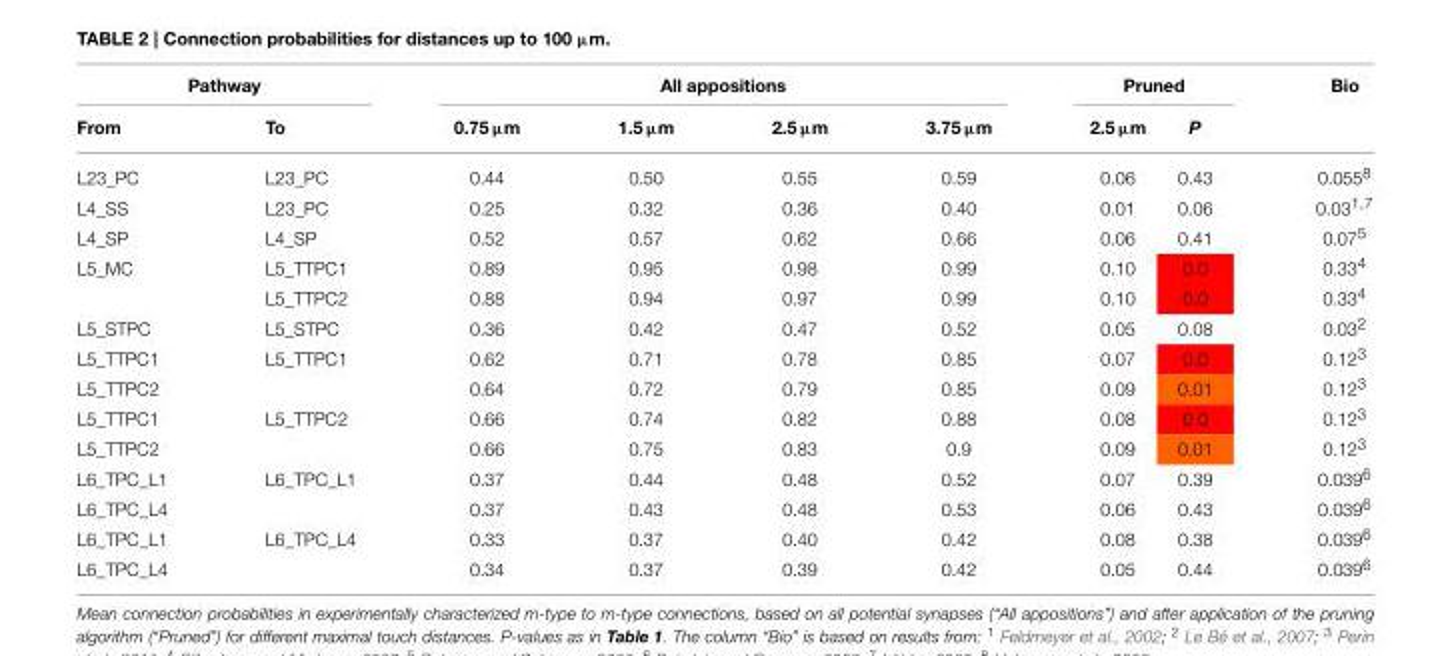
<table><thead><tr><td colspan="2">Pathway</td><td colspan="4">All appositions</td><td colspan="2">Pruned</td><td rowspan="2">Bio</td></tr><tr><td>From</td><td>To</td><td>0.75 µm</td><td>1.5 µm</td><td>2.5 µm</td><td>3.75 µm</td><td>2.5 µm</td><td>P</td></tr></thead><tbody><tr><td>L23_PC</td><td>L23_PC</td><td>0.44</td><td>0.50</td><td>0.55</td><td>0.59</td><td>0.06</td><td>0.43</td><td>0.055<sup>8</sup></td></tr><tr><td>L4_SS</td><td>L23_PC</td><td>0.25</td><td>0.32</td><td>0.36</td><td>0.40</td><td>0.01</td><td>0.06</td><td>0.03<sup>1,7</sup></td></tr><tr><td>L4_SP</td><td>L4_SP</td><td>0.52</td><td>0.57</td><td>0.62</td><td>0.66</td><td>0.06</td><td>0.41</td><td>0.07<sup>5</sup></td></tr><tr><td rowspan="2">L5_MC</td><td>L5_TTPC1</td><td>0.89</td><td>0.95</td><td>0.98</td><td>0.99</td><td>0.10</td><td>0.0</td><td>0.33<sup>4</sup></td></tr><tr><td>L5_TTPC2</td><td>0.88</td><td>0.94</td><td>0.97</td><td>0.99</td><td>0.10</td><td>0.0</td><td>0.33<sup>4</sup></td></tr><tr><td>L5_STPC</td><td>L5_STPC</td><td>0.36</td><td>0.42</td><td>0.47</td><td>0.52</td><td>0.05</td><td>0.08</td><td>0.03<sup>2</sup></td></tr><tr><td>L5_TTPC1</td><td>L5_TTPC1</td><td>0.62</td><td>0.71</td><td>0.78</td><td>0.85</td><td>0.07</td><td>0.0</td><td>0.12<sup>3</sup></td></tr><tr><td>L5_TTPC2</td><td></td><td>0.64</td><td>0.72</td><td>0.79</td><td>0.85</td><td>0.09</td><td>0.01</td><td>0.12<sup>3</sup></td></tr><tr><td>L5_TTPC1</td><td>L5_TTPC2</td><td>0.66</td><td>0.74</td><td>0.82</td><td>0.88</td><td>0.08</td><td>0.0</td><td>0.12<sup>3</sup></td></tr><tr><td>L5_TTPC2</td><td></td><td>0.66</td><td>0.75</td><td>0.83</td><td>0.9</td><td>0.09</td><td>0.01</td><td>0.12<sup>3</sup></td></tr><tr><td>L6_TPC_L1</td><td>L6_TPC_L1</td><td>0.37</td><td>0.44</td><td>0.48</td><td>0.52</td><td>0.07</td><td>0.39</td><td>0.039<sup>6</sup></td></tr><tr><td>L6_TPC_L4</td><td></td><td>0.37</td><td>0.43</td><td>0.48</td><td>0.53</td><td>0.06</td><td>0.43</td><td>0.039<sup>6</sup></td></tr><tr><td>L6_TPC_L1</td><td>L6_TPC_L4</td><td>0.33</td><td>0.37</td><td>0.40</td><td>0.42</td><td>0.08</td><td>0.38</td><td>0.039<sup>6</sup></td></tr><tr><td>L6_TPC_L4</td><td></td><td>0.34</td><td>0.37</td><td>0.39</td><td>0.42</td><td>0.05</td><td>0.44</td><td>0.039<sup>6</sup></td></tr></tbody></table>